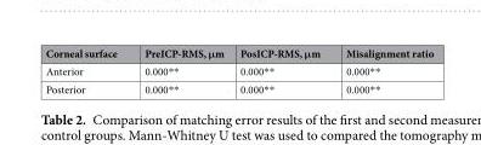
<table><thead><tr><td>Corneal surface</td><td>PreICP-RMS, μm</td><td>PosICP-RMS, μm</td><td>Misalignment ratio</td></tr></thead><tbody><tr><td>Anterior</td><td>0.000**</td><td>0.000**</td><td>0.000**</td></tr><tr><td>Posterior</td><td>0.000**</td><td>0.000**</td><td>0.000**</td></tr></tbody></table>